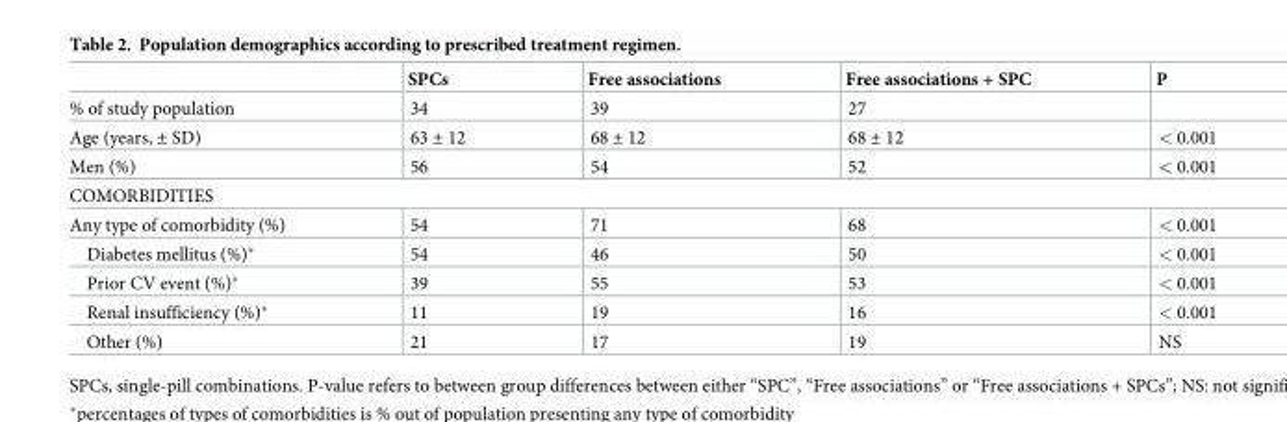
<table><thead><tr><td></td><td>SPCs</td><td>Free associations</td><td>Free associations + SPC</td><td>P</td></tr></thead><tbody><tr><td>% of study population</td><td>34</td><td>39</td><td>27</td><td></td></tr><tr><td>Age (years, ± SD)</td><td>63 ± 12</td><td>68 ± 12</td><td>68 ± 12</td><td>&lt; 0.001</td></tr><tr><td>Men (%)</td><td>56</td><td>54</td><td>52</td><td>&lt; 0.001</td></tr><tr><td colspan="5">COMORBIDITIES</td></tr><tr><td>Any type of comorbidity (%)</td><td>54</td><td>71</td><td>68</td><td>&lt; 0.001</td></tr><tr><td>Diabetes mellitus (%)*</td><td>54</td><td>46</td><td>50</td><td>&lt; 0.001</td></tr><tr><td>Prior CV event (%)*</td><td>39</td><td>55</td><td>53</td><td>&lt; 0.001</td></tr><tr><td>Renal insufficiency (%)*</td><td>11</td><td>19</td><td>16</td><td>&lt; 0.001</td></tr><tr><td>Other (%)</td><td>21</td><td>17</td><td>19</td><td>NS</td></tr></tbody></table>